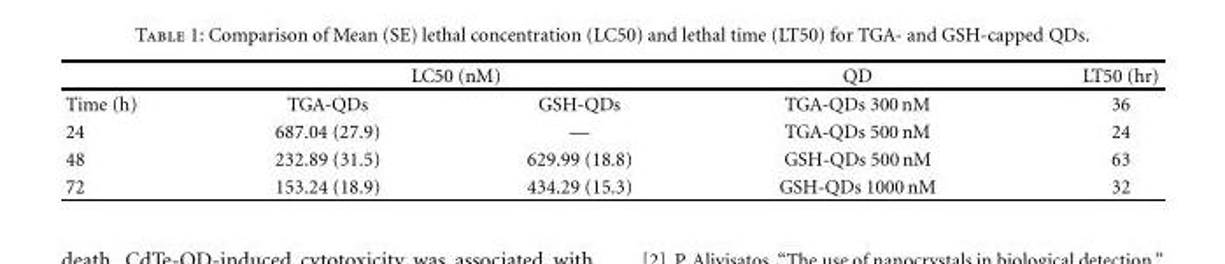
<table><thead><tr><td rowspan="2">Time (h)</td><td colspan="2">LC50 (nM)</td><td rowspan="2">QD TGA-QDs 300 nM</td><td rowspan="2">LT50 (hr) 36</td></tr><tr><td>TGA-QDs</td><td>GSH-QDs</td></tr></thead><tbody><tr><td>24</td><td>687.04 (27.9)</td><td>—</td><td>TGA-QDs 500 nM</td><td>24</td></tr><tr><td>48</td><td>232.89 (31.5)</td><td>629.99 (18.8)</td><td>GSH-QDs 500 nM</td><td>63</td></tr><tr><td>72</td><td>153.24 (18.9)</td><td>434.29 (15.3)</td><td>GSH-QDs 1000 nM</td><td>32</td></tr></tbody></table>